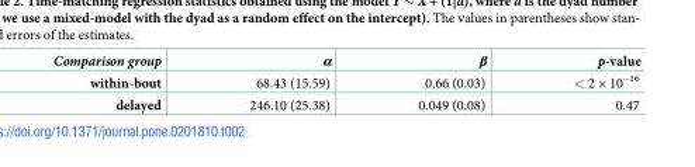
<table><thead><tr><td>Comparison group</td><td>α</td><td>β</td><td>p-value</td></tr></thead><tbody><tr><td>within-bout</td><td>68.43 (15.59)</td><td>0.66 (0.03)</td><td>&lt; 2 × 10<sup>−16</sup></td></tr><tr><td>delayed</td><td>246.10 (25.38)</td><td>0.049 (0.08)</td><td>0.47</td></tr></tbody></table>